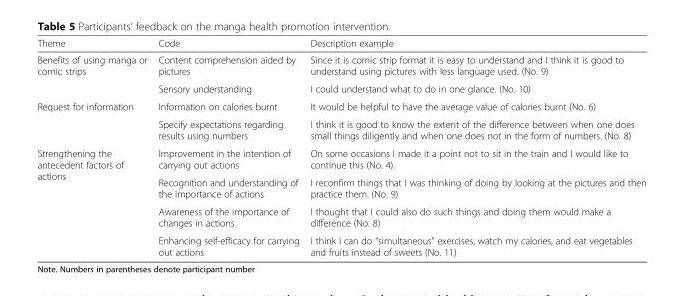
<table><thead><tr><td>Theme</td><td>Code</td><td>Description example</td></tr></thead><tbody><tr><td rowspan="2">Benefits of using manga or comic strips</td><td>Content comprehension aided by pictures</td><td>Since it is comic strip format it is easy to understand and I think it is good to understand using pictures with less language used. (No. 9)</td></tr><tr><td>Sensory understanding</td><td>I could understand what to do in one glance. (No. 10)</td></tr><tr><td rowspan="2">Request for information</td><td>Information on calories burnt</td><td>It would be helpful to have the average value of calories burnt (No. 6)</td></tr><tr><td>Specify expectations regarding results using numbers</td><td>I think it is good to know the extent of the difference between when one does small things diligently and when one does not in the form of numbers. (No. 8)</td></tr><tr><td rowspan="4">Strengthening the antecedent factors of actions</td><td>Improvement in the intention of carrying out actions</td><td>On some occasions I made it a point not to sit in the train and I would like to continue this (No. 4).</td></tr><tr><td>Recognition and understanding of the importance of actions</td><td>I reconfirm things that I was thinking of doing by looking at the pictures and then practice them. (No. 9)</td></tr><tr><td>Awareness of the importance of changes in actions</td><td>I thought that I could also do such things and doing them would make a difference (No. 8)</td></tr><tr><td>Enhancing self-efficacy for carrying out actions</td><td>I think I can do “simultaneous” exercises, watch my calories, and eat vegetables and fruits instead of sweets (No. 11)</td></tr></tbody></table>